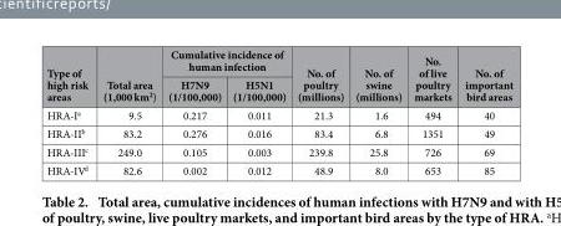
<table><thead><tr><td rowspan="2">Type of high risk areas</td><td rowspan="2">Total area (1,000 km<sup>2</sup>)</td><td colspan="2">Cumulative incidence of human infection</td><td rowspan="2">No. of poultry (millions)</td><td rowspan="2">No. of swine (millions)</td><td rowspan="2">No. of live poultry markets</td><td rowspan="2">No. of important bird areas</td></tr><tr><td>H7N9 (1/100,000)</td><td>H5N1 (1/100,000)</td></tr></thead><tbody><tr><td>HRA-I<sup>a</sup></td><td>9.5</td><td>0.217</td><td>0.011</td><td>21.3</td><td>1.6</td><td>494</td><td>40</td></tr><tr><td>HRA-II<sup>b</sup></td><td>83.2</td><td>0.276</td><td>0.016</td><td>83.4</td><td>6.8</td><td>1351</td><td>49</td></tr><tr><td>HRA-III<sup>c</sup></td><td>249.0</td><td>0.105</td><td>0.003</td><td>239.8</td><td>25.8</td><td>726</td><td>69</td></tr><tr><td>HRA-IV<sup>d</sup></td><td>82.6</td><td>0.002</td><td>0.012</td><td>48.9</td><td>8.0</td><td>653</td><td>85</td></tr></tbody></table>